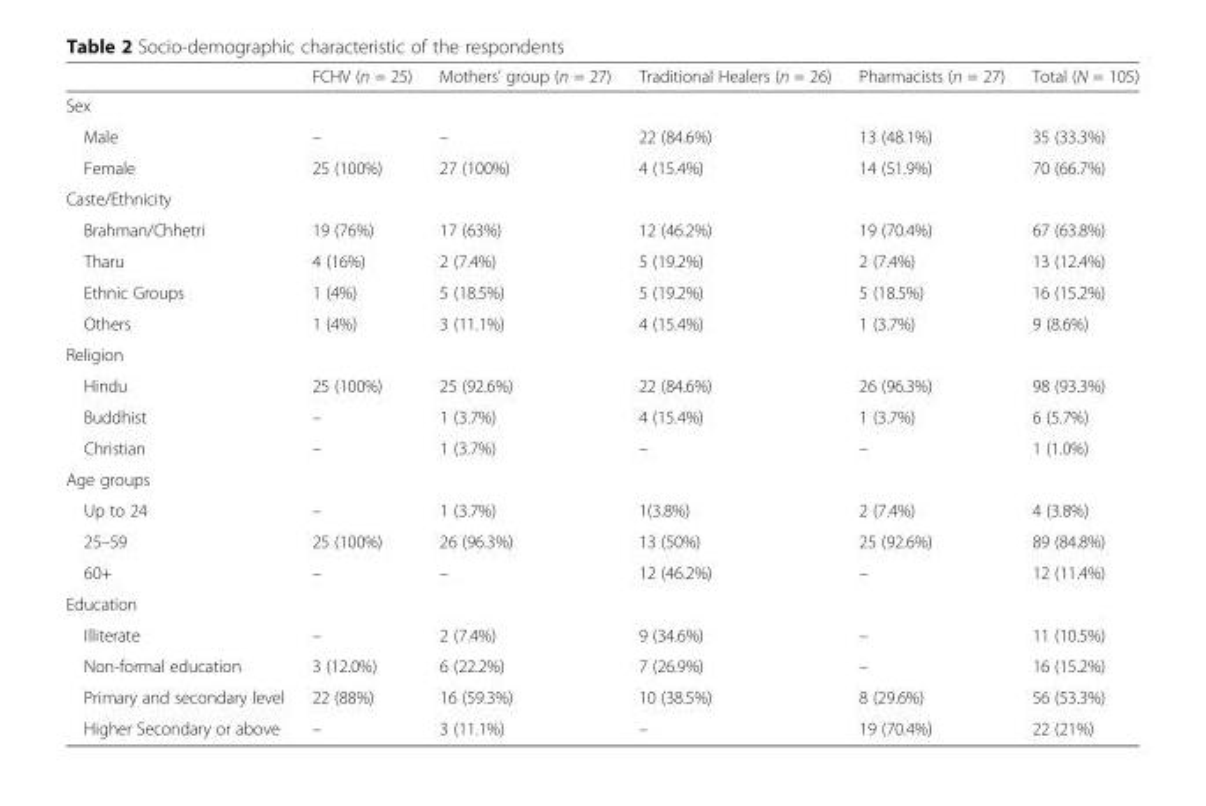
<table><thead><tr><td></td><td>FCHV (n = 25)</td><td>Mothers’ group (n = 27)</td><td>Traditional Healers (n = 26)</td><td>Pharmacists (n = 27)</td><td>Total (N = 105)</td></tr></thead><tbody><tr><td colspan="6">Sex</td></tr><tr><td>Male</td><td>–</td><td>–</td><td>22 (84.6%)</td><td>13 (48.1%)</td><td>35 (33.3%)</td></tr><tr><td>Female</td><td>25 (100%)</td><td>27 (100%)</td><td>4 (15.4%)</td><td>14 (51.9%)</td><td>70 (66.7%)</td></tr><tr><td colspan="6">Caste/Ethnicity</td></tr><tr><td>Brahman/Chhetri</td><td>19 (76%)</td><td>17 (63%)</td><td>12 (46.2%)</td><td>19 (70.4%)</td><td>67 (63.8%)</td></tr><tr><td>Tharu</td><td>4 (16%)</td><td>2 (7.4%)</td><td>5 (19.2%)</td><td>2 (7.4%)</td><td>13 (12.4%)</td></tr><tr><td>Ethnic Groups</td><td>1 (4%)</td><td>5 (18.5%)</td><td>5 (19.2%)</td><td>5 (18.5%)</td><td>16 (15.2%)</td></tr><tr><td>Others</td><td>1 (4%)</td><td>3 (11.1%)</td><td>4 (15.4%)</td><td>1 (3.7%)</td><td>9 (8.6%)</td></tr><tr><td colspan="6">Religion</td></tr><tr><td>Hindu</td><td>25 (100%)</td><td>25 (92.6%)</td><td>22 (84.6%)</td><td>26 (96.3%)</td><td>98 (93.3%)</td></tr><tr><td>Buddhist</td><td>–</td><td>1 (3.7%)</td><td>4 (15.4%)</td><td>1 (3.7%)</td><td>6 (5.7%)</td></tr><tr><td>Christian</td><td>–</td><td>1 (3.7%)</td><td>–</td><td>–</td><td>1 (1.0%)</td></tr><tr><td colspan="6">Age groups</td></tr><tr><td>Up to 24</td><td>–</td><td>1 (3.7%)</td><td>1(3.8%)</td><td>2 (7.4%)</td><td>4 (3.8%)</td></tr><tr><td>25–59</td><td>25 (100%)</td><td>26 (96.3%)</td><td>13 (50%)</td><td>25 (92.6%)</td><td>89 (84.8%)</td></tr><tr><td>60+</td><td>–</td><td>–</td><td>12 (46.2%)</td><td>–</td><td>12 (11.4%)</td></tr><tr><td colspan="6">Education</td></tr><tr><td>Illiterate</td><td>–</td><td>2 (7.4%)</td><td>9 (34.6%)</td><td>–</td><td>11 (10.5%)</td></tr><tr><td>Non-formal education</td><td>3 (12.0%)</td><td>6 (22.2%)</td><td>7 (26.9%)</td><td>–</td><td>16 (15.2%)</td></tr><tr><td>Primary and secondary level</td><td>22 (88%)</td><td>16 (59.3%)</td><td>10 (38.5%)</td><td>8 (29.6%)</td><td>56 (53.3%)</td></tr><tr><td>Higher Secondary or above</td><td>–</td><td>3 (11.1%)</td><td>–</td><td>19 (70.4%)</td><td>22 (21%)</td></tr></tbody></table>